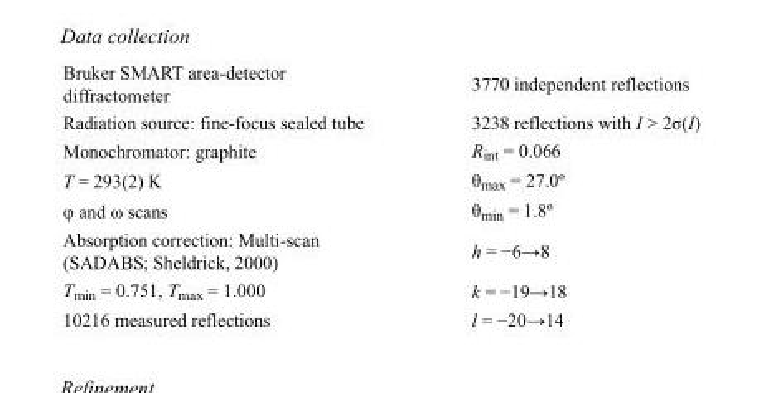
<table><tbody><tr><td>Bruker SMART area-detector diffractometer</td><td>3770 independent reflections</td></tr><tr><td>Radiation source: fine-focus sealed tube</td><td>3238 reflections with I &gt; 2σ(I)</td></tr><tr><td>Monochromator: graphite</td><td>R<sub>int</sub> = 0.066</td></tr><tr><td>T = 293(2) K</td><td>θ<sub>max</sub> = 27.0º</td></tr><tr><td>φ and ω scans</td><td>θ<sub>min</sub> = 1.8º</td></tr><tr><td>Absorption correction: Multi-scan (SADABS; Sheldrick, 2000)</td><td>h = −6→8</td></tr><tr><td>T<sub>min</sub> = 0.751, T<sub>max</sub> = 1.000</td><td>k = −19→18</td></tr><tr><td>10216 measured reflections</td><td>l = −20→14</td></tr></tbody></table>